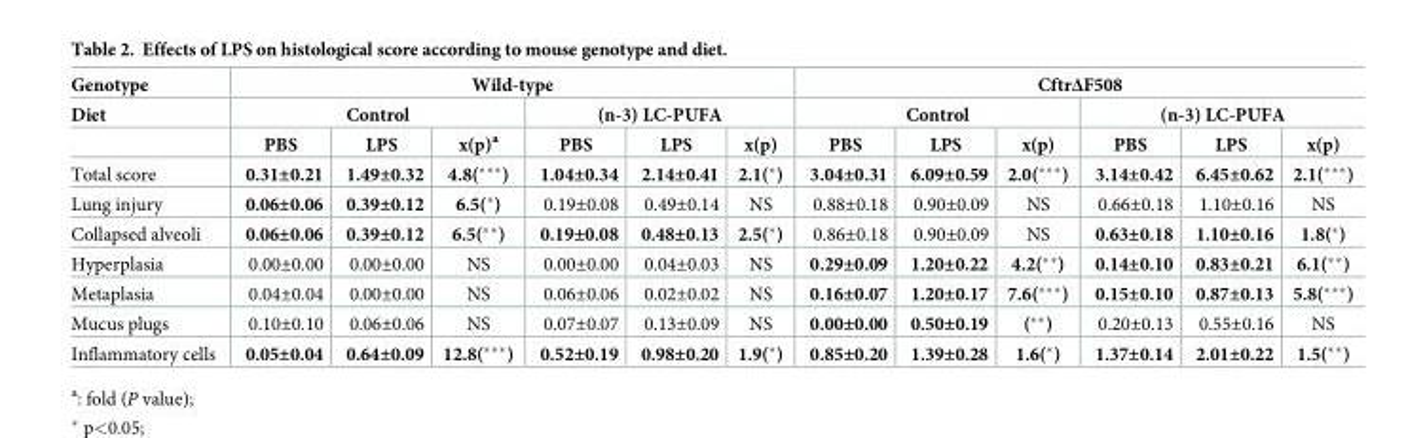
<table><thead><tr><td rowspan="3">Genotype Diet</td><td colspan="6">Wild-type</td><td colspan="6">CftrΔF508</td></tr><tr><td colspan="3">Control</td><td colspan="3">(n-3) LC-PUFA</td><td colspan="3">Control</td><td colspan="3">(n-3) LC-PUFA</td></tr><tr><td>PBS</td><td>LPS</td><td>x(p)<sup>a</sup></td><td>PBS</td><td>LPS</td><td>x(p)</td><td>PBS</td><td>LPS</td><td>x(p)</td><td>PBS</td><td>LPS</td><td>x(p)</td></tr></thead><tbody><tr><td>Total score</td><td>0.31±0.21</td><td>1.49±0.32</td><td>4.8(***)</td><td>1.04±0.34</td><td>2.14±0.41</td><td>2.1(*)</td><td>3.04±0.31</td><td>6.09±0.59</td><td>2.0(***)</td><td>3.14±0.42</td><td>6.45±0.62</td><td>2.1(***)</td></tr><tr><td>Lung injury</td><td>0.06±0.06</td><td>0.39±0.12</td><td>6.5(*)</td><td>0.19±0.08</td><td>0.49±0.14</td><td>NS</td><td>0.88±0.18</td><td>0.90±0.09</td><td>NS</td><td>0.66±0.18</td><td>1.10±0.16</td><td>NS</td></tr><tr><td>Collapsed alveoli</td><td>0.06±0.06</td><td>0.39±0.12</td><td>6.5(**)</td><td>0.19±0.08</td><td>0.48±0.13</td><td>2.5(*)</td><td>0.86±0.18</td><td>0.90±0.09</td><td>NS</td><td>0.63±0.18</td><td>1.10±0.16</td><td>1.8(*)</td></tr><tr><td>Hyperplasia</td><td>0.00±0.00</td><td>0.00±0.00</td><td>NS</td><td>0.00±0.00</td><td>0.04±0.03</td><td>NS</td><td>0.29±0.09</td><td>1.20±0.22</td><td>4.2(**)</td><td>0.14±0.10</td><td>0.83±0.21</td><td>6.1(**)</td></tr><tr><td>Metaplasia</td><td>0.04±0.04</td><td>0.00±0.00</td><td>NS</td><td>0.06±0.06</td><td>0.02±0.02</td><td>NS</td><td>0.16±0.07</td><td>1.20±0.17</td><td>7.6(***)</td><td>0.15±0.10</td><td>0.87±0.13</td><td>5.8(***)</td></tr><tr><td>Mucus plugs</td><td>0.10±0.10</td><td>0.06±0.06</td><td>NS</td><td>0.07±0.07</td><td>0.13±0.09</td><td>NS</td><td>0.00±0.00</td><td>0.50±0.19</td><td>(**)</td><td>0.20±0.13</td><td>0.55±0.16</td><td>NS</td></tr><tr><td>Inflammatory cells</td><td>0.05±0.04</td><td>0.64±0.09</td><td>12.8(***)</td><td>0.52±0.19</td><td>0.98±0.20</td><td>1.9(*)</td><td>0.85±0.20</td><td>1.39±0.28</td><td>1.6(*)</td><td>1.37±0.14</td><td>2.01±0.22</td><td>1.5(**)</td></tr></tbody></table>